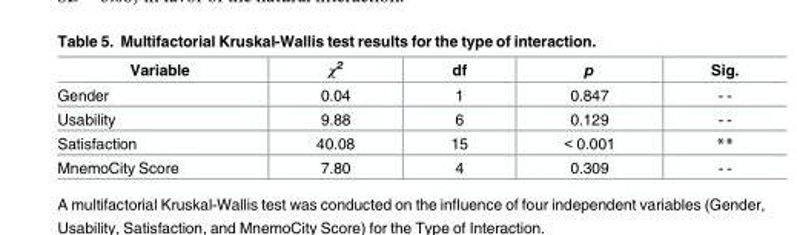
<table><thead><tr><td>Variable</td><td>χ<sup>2</sup></td><td>df</td><td>p</td><td>Sig.</td></tr></thead><tbody><tr><td>Gender</td><td>0.04</td><td>1</td><td>0.847</td><td>- -</td></tr><tr><td>Usability</td><td>9.88</td><td>6</td><td>0.129</td><td>- -</td></tr><tr><td>Satisfaction</td><td>40.08</td><td>15</td><td>&lt; 0.001</td><td>**</td></tr><tr><td>MnemoCity Score</td><td>7.80</td><td>4</td><td>0.309</td><td>- -</td></tr></tbody></table>